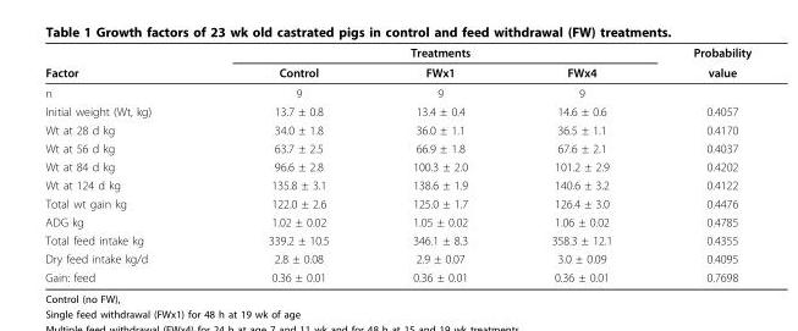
<table><thead><tr><td rowspan="2">Factor</td><td rowspan="2">Control</td><td rowspan="2">Treatments FWx1</td><td rowspan="2">FWx4</td><td rowspan="2">Probability value</td></tr><tr></tr></thead><tbody><tr><td>n</td><td>9</td><td>9</td><td>9</td><td></td></tr><tr><td>Initial weight (Wt, kg)</td><td>13.7 ± 0.8</td><td>13.4 ± 0.4</td><td>14.6 ± 0.6</td><td>0.4057</td></tr><tr><td>Wt at 28 d kg</td><td>34.0 ± 1.8</td><td>36.0 ± 1.1</td><td>36.5 ± 1.1</td><td>0.4170</td></tr><tr><td>Wt at 56 d kg</td><td>63.7 ± 2.5</td><td>66.9 ± 1.8</td><td>67.6 ± 2.1</td><td>0.4037</td></tr><tr><td>Wt at 84 d kg</td><td>96.6 ± 2.8</td><td>100.3 ± 2.0</td><td>101.2 ± 2.9</td><td>0.4202</td></tr><tr><td>Wt at 124 d kg</td><td>135.8 ± 3.1</td><td>138.6 ± 1.9</td><td>140.6 ± 3.2</td><td>0.4122</td></tr><tr><td>Total wt gain kg</td><td>122.0 ± 2.6</td><td>125.0 ± 1.7</td><td>126.4 ± 3.0</td><td>0.4476</td></tr><tr><td>ADG kg</td><td>1.02 ± 0.02</td><td>1.05 ± 0.02</td><td>1.06 ± 0.02</td><td>0.4785</td></tr><tr><td>Total feed intake kg</td><td>339.2 ± 10.5</td><td>346.1 ± 8.3</td><td>358.3 ± 12.1</td><td>0.4355</td></tr><tr><td>Dry feed intake kg/d</td><td>2.8 ± 0.08</td><td>2.9 ± 0.07</td><td>3.0 ± 0.09</td><td>0.4095</td></tr><tr><td>Gain: feed</td><td>0.36 ± 0.01</td><td>0.36 ± 0.01</td><td>0.36 ± 0.01</td><td>0.7698</td></tr></tbody></table>